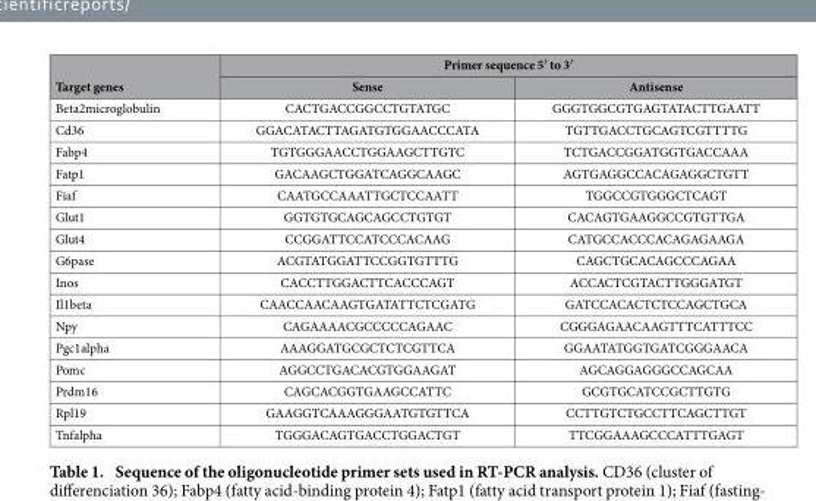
<table><thead><tr><td rowspan="2">Target genes</td><td colspan="2">Primer sequence 5′ to 3′</td></tr><tr><td>Sense</td><td>Antisense</td></tr></thead><tbody><tr><td>Beta2microglobulin</td><td>CACTGACCGGCCTGTATGC</td><td>GGGTGGCGTGAGTATACTTGAATT</td></tr><tr><td>Cd36</td><td>GGACATACTTAGATGTGGAACCCATA</td><td>TGTTGACCTGCAGTCGTTTTG</td></tr><tr><td>Fabp4</td><td>TGTGGGAACCTGGAAGCTTGTC</td><td>TCTGACCGGATGGTGACCAAA</td></tr><tr><td>Fatp1</td><td>GACAAGCTGGATCAGGCAAGC</td><td>AGTGAGGCCACAGAGGCTGTT</td></tr><tr><td>Fiaf</td><td>CAATGCCAAATTGCTCCAATT</td><td>TGGCCGTGGGCTCAGT</td></tr><tr><td>Glut1</td><td>GGTGTGCAGCAGCCTGTGT</td><td>CACAGTGAAGGCCGTGTTGA</td></tr><tr><td>Glut4</td><td>CCGGATTCCATCCCACAAG</td><td>CATGCCACCCACAGAGAAGA</td></tr><tr><td>G6pase</td><td>ACGTATGGATTCCGGTGTTTG</td><td>CAGCTGCACAGCCCAGAA</td></tr><tr><td>Inos</td><td>CACCTTGGACTTCACCCAGT</td><td>ACCACTCGTACTTGGGATGT</td></tr><tr><td>Il1beta</td><td>CAACCAACAAGTGATATTCTCGATG</td><td>GATCCACACTCTCCAGCTGCA</td></tr><tr><td>Npy</td><td>CAGAAAACGCCCCCAGAAC</td><td>CGGGAGAACAAGTTTCATTTCC</td></tr><tr><td>Pgc1alpha</td><td>AAAGGATGCGCTCTCGTTCA</td><td>GGAATATGGTGATCGGGAACA</td></tr><tr><td>Pomc</td><td>AGGCCTGACACGTGGAAGAT</td><td>AGCAGGAGGGCCAGCAA</td></tr><tr><td>Prdm16</td><td>CAGCACGGTGAAGCCATTC</td><td>GCGTGCATCCGCTTGTG</td></tr><tr><td>Rpl19</td><td>GAAGGTCAAAGGGAATGTGTTCA</td><td>CCTTGTCTGCCTTCAGCTTGT</td></tr><tr><td>Tnfalpha</td><td>TGGGACAGTGACCTGGACTGT</td><td>TTCGGAAAGCCCATTTGAGT</td></tr></tbody></table>